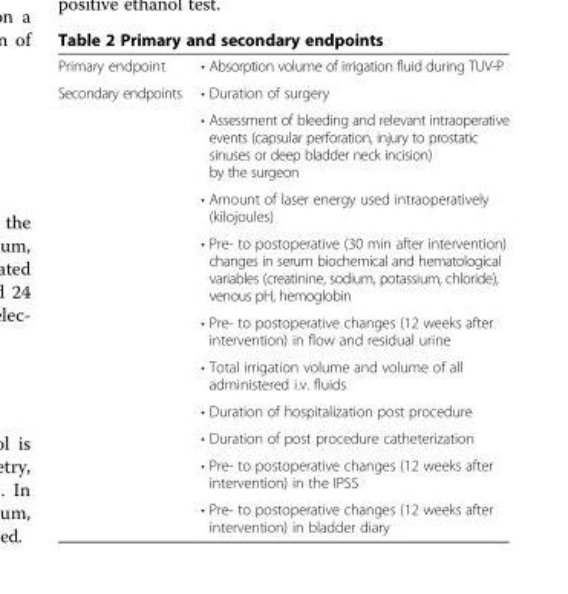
<table><tbody><tr><td>Primary endpoint</td><td>• Absorption volume of irrigation fluid during TUV-P</td></tr><tr><td rowspan="10">Secondary endpoints</td><td>• Duration of surgery</td></tr><tr><td>• Assessment of bleeding and relevant intraoperative events (capsular perforation, injury to prostatic sinuses or deep bladder neck incision) by the surgeon</td></tr><tr><td>• Amount of laser energy used intraoperatively (kilojoules)</td></tr><tr><td>• Pre- to postoperative (30 min after intervention) changes in serum biochemical and hematological variables (creatinine, sodium, potassium, chloride), venous pH, hemoglobin</td></tr><tr><td>• Pre- to postoperative changes (12 weeks after intervention) in flow and residual urine</td></tr><tr><td>• Total irrigation volume and volume of all administered i.v. fluids</td></tr><tr><td>• Duration of hospitalization post procedure</td></tr><tr><td>• Duration of post procedure catheterization</td></tr><tr><td>• Pre- to postoperative changes (12 weeks after intervention) in the IPSS</td></tr><tr><td>• Pre- to postoperative changes (12 weeks after intervention) in bladder diary</td></tr></tbody></table>